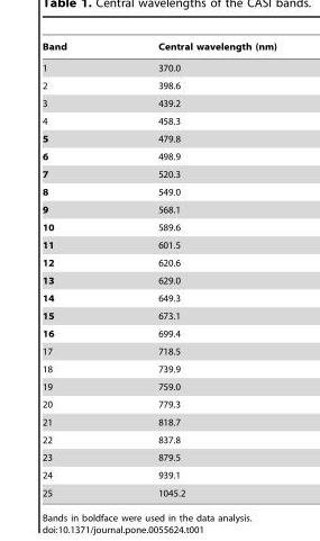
<table><thead><tr><td>Band</td><td>Central wavelength (nm)</td></tr></thead><tbody><tr><td>1</td><td>370.0</td></tr><tr><td>2</td><td>398.6</td></tr><tr><td>3</td><td>439.2</td></tr><tr><td>4</td><td>458.3</td></tr><tr><td>5</td><td>479.8</td></tr><tr><td>6</td><td>498.9</td></tr><tr><td>7</td><td>520.3</td></tr><tr><td>8</td><td>549.0</td></tr><tr><td>9</td><td>568.1</td></tr><tr><td>10</td><td>589.6</td></tr><tr><td>11</td><td>601.5</td></tr><tr><td>12</td><td>620.6</td></tr><tr><td>13</td><td>629.0</td></tr><tr><td>14</td><td>649.3</td></tr><tr><td>15</td><td>673.1</td></tr><tr><td>16</td><td>699.4</td></tr><tr><td>17</td><td>718.5</td></tr><tr><td>18</td><td>739.9</td></tr><tr><td>19</td><td>759.0</td></tr><tr><td>20</td><td>779.3</td></tr><tr><td>21</td><td>818.7</td></tr><tr><td>22</td><td>837.8</td></tr><tr><td>23</td><td>879.5</td></tr><tr><td>24</td><td>939.1</td></tr><tr><td>25</td><td>1045.2</td></tr></tbody></table>